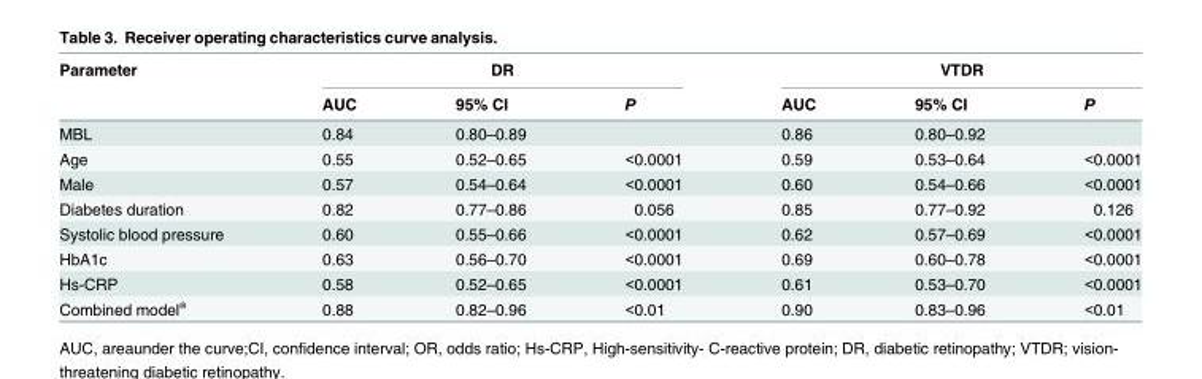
<table><thead><tr><td rowspan="2">Parameter</td><td colspan="3">DR</td><td colspan="3">VTDR</td></tr><tr><td>AUC</td><td>95% CI</td><td>P</td><td>AUC</td><td>95% CI</td><td>P</td></tr></thead><tbody><tr><td>MBL</td><td>0.84</td><td>0.80–0.89</td><td></td><td>0.86</td><td>0.80–0.92</td><td></td></tr><tr><td>Age</td><td>0.55</td><td>0.52–0.65</td><td>&lt;0.0001</td><td>0.59</td><td>0.53–0.64</td><td>&lt;0.0001</td></tr><tr><td>Male</td><td>0.57</td><td>0.54–0.64</td><td>&lt;0.0001</td><td>0.60</td><td>0.54–0.66</td><td>&lt;0.0001</td></tr><tr><td>Diabetes duration</td><td>0.82</td><td>0.77–0.86</td><td>0.056</td><td>0.85</td><td>0.77–0.92</td><td>0.126</td></tr><tr><td>Systolic blood pressure</td><td>0.60</td><td>0.55–0.66</td><td>&lt;0.0001</td><td>0.62</td><td>0.57–0.69</td><td>&lt;0.0001</td></tr><tr><td>HbA1c</td><td>0.63</td><td>0.56–0.70</td><td>&lt;0.0001</td><td>0.69</td><td>0.60–0.78</td><td>&lt;0.0001</td></tr><tr><td>Hs-CRP</td><td>0.58</td><td>0.52–0.65</td><td>&lt;0.0001</td><td>0.61</td><td>0.53–0.70</td><td>&lt;0.0001</td></tr><tr><td>Combined model<sup>a</sup></td><td>0.88</td><td>0.82–0.96</td><td>&lt;0.01</td><td>0.90</td><td>0.83–0.96</td><td>&lt;0.01</td></tr></tbody></table>